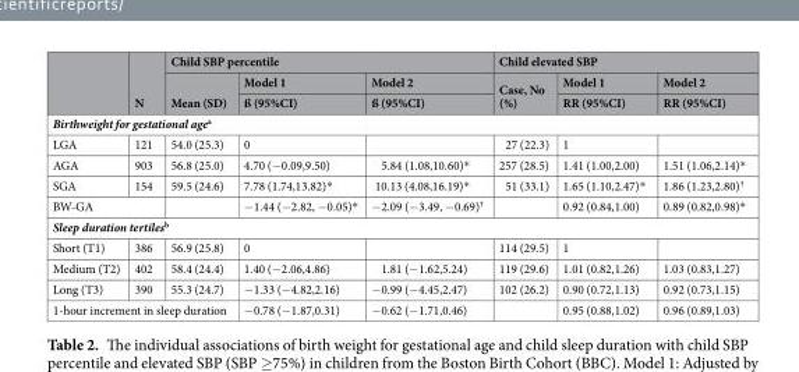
<table><thead><tr><td rowspan="3"></td><td rowspan="3">N</td><td colspan="3">Child SBP percentile</td><td colspan="3">Child elevated SBP</td></tr><tr><td rowspan="2">Mean (SD)</td><td rowspan="2">Model 1 ß (95%CI)</td><td rowspan="2">Model 2 ß (95%CI)</td><td rowspan="2">Case, No (%)</td><td rowspan="2">Model 1 RR (95%CI)</td><td rowspan="2">Model 2 RR (95%CI)</td></tr><tr></tr></thead><tbody><tr><td colspan="8">Birthweight for gestational age<sup>a</sup></td></tr><tr><td>LGA</td><td>121</td><td>54.0 (25.3)</td><td>0</td><td></td><td>27 (22.3)</td><td>1</td><td></td></tr><tr><td>AGA</td><td>903</td><td>56.8 (25.0)</td><td>4.70 (−0.09,9.50)</td><td>5.84 (1.08,10.60)*</td><td>257 (28.5)</td><td>1.41 (1.00,2.00)</td><td>1.51 (1.06,2.14)*</td></tr><tr><td>SGA</td><td>154</td><td>59.5 (24.6)</td><td>7.78 (1.74,13.82)*</td><td>10.13 (4.08,16.19)*</td><td>51 (33.1)</td><td>1.65 (1.10,2.47)*</td><td>1.86 (1.23,2.80)<sup>†</sup></td></tr><tr><td colspan="2">BW-GA</td><td></td><td>−1.44 (−2.82, −0.05)*</td><td>−2.09 (−3.49, −0.69)<sup>†</sup></td><td></td><td>0.92 (0.84,1.00)</td><td>0.89 (0.82,0.98)*</td></tr><tr><td colspan="8">Sleep duration tertiles<sup>b</sup></td></tr><tr><td>Short (T1)</td><td>386</td><td>56.9 (25.8)</td><td>0</td><td></td><td>114 (29.5)</td><td>1</td><td></td></tr><tr><td>Medium (T2)</td><td>402</td><td>58.4 (24.4)</td><td>1.40 (−2.06,4.86)</td><td>1.81 (−1.62,5.24)</td><td>119 (29.6)</td><td>1.01 (0.82,1.26)</td><td>1.03 (0.83,1.27)</td></tr><tr><td>Long (T3)</td><td>390</td><td>55.3 (24.7)</td><td>−1.33 (−4.82,2.16)</td><td>−0.99 (−4.45,2.47)</td><td>102 (26.2)</td><td>0.90 (0.72,1.13)</td><td>0.92 (0.73,1.15)</td></tr><tr><td colspan="3">1-hour increment in sleep duration</td><td>−0.78 (−1.87,0.31)</td><td>−0.62 (−1.71,0.46)</td><td></td><td>0.95 (0.88,1.02)</td><td>0.96 (0.89,1.03)</td></tr></tbody></table>